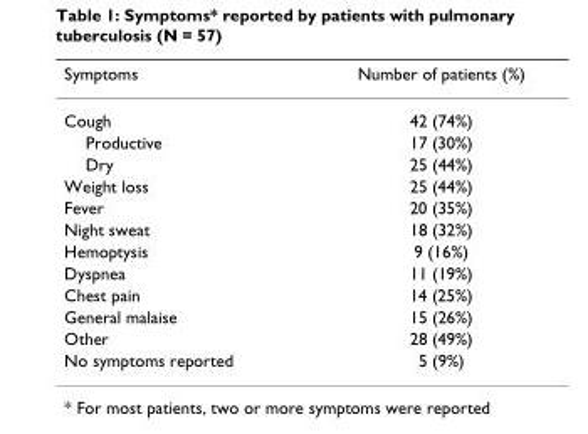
<table><thead><tr><td>Symptoms</td><td>Number of patients (%)</td></tr></thead><tbody><tr><td>Cough</td><td>42 (74%)</td></tr><tr><td>Productive</td><td>17 (30%)</td></tr><tr><td>Dry</td><td>25 (44%)</td></tr><tr><td>Weight loss</td><td>25 (44%)</td></tr><tr><td>Fever</td><td>20 (35%)</td></tr><tr><td>Night sweat</td><td>18 (32%)</td></tr><tr><td>Hemoptysis</td><td>9 (16%)</td></tr><tr><td>Dyspnea</td><td>11 (19%)</td></tr><tr><td>Chest pain</td><td>14 (25%)</td></tr><tr><td>General malaise</td><td>15 (26%)</td></tr><tr><td>Other</td><td>28 (49%)</td></tr><tr><td>No symptoms reported</td><td>5 (9%)</td></tr></tbody></table>